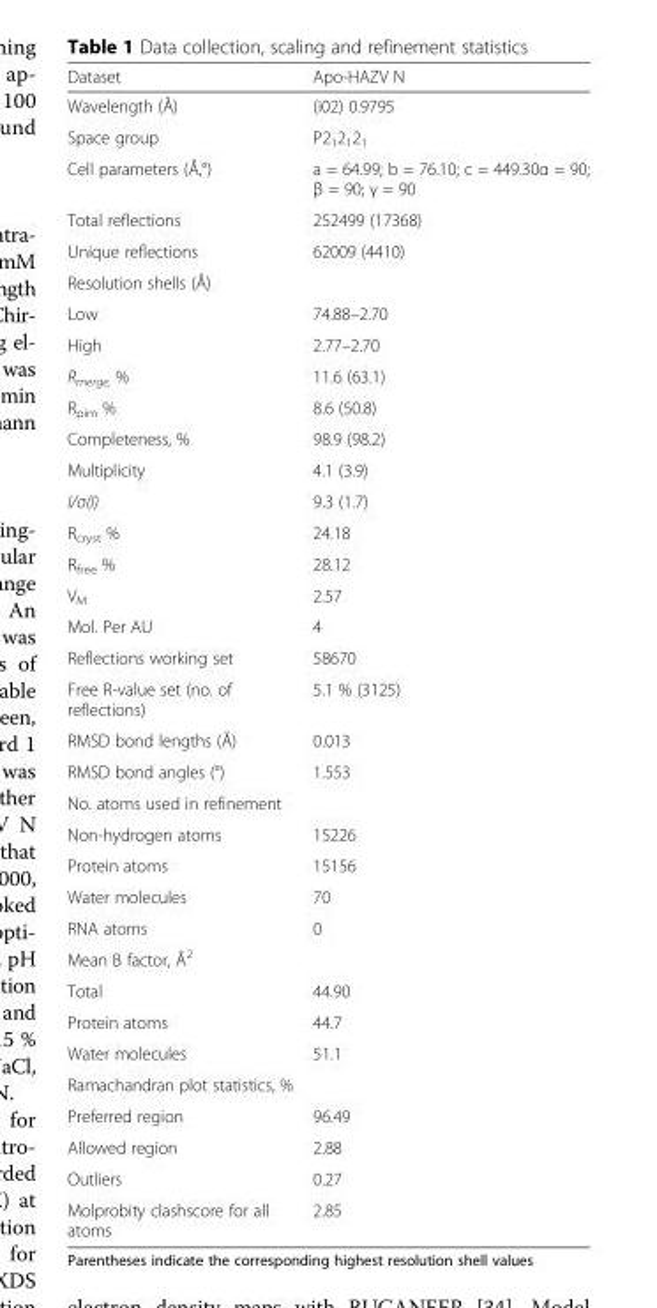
<table><thead><tr><td>Dataset</td><td>Apo-HAZV N</td></tr></thead><tbody><tr><td>Wavelength (Å)</td><td>(i02) 0.9795</td></tr><tr><td>Space group</td><td>P2<sub>1</sub>2<sub>1</sub>2<sub>1</sub></td></tr><tr><td>Cell parameters (Å,°)</td><td>a = 64.99; b = 76.10; c = 449.30α = 90; β = 90; γ = 90</td></tr><tr><td>Total reflections</td><td>252499 (17368)</td></tr><tr><td>Unique reflections</td><td>62009 (4410)</td></tr><tr><td colspan="2">Resolution shells (Å)</td></tr><tr><td>Low</td><td>74.88–2.70</td></tr><tr><td>High</td><td>2.77–2.70</td></tr><tr><td>R<sub>merge,</sub> %</td><td>11.6 (63.1)</td></tr><tr><td>R<sub>pim</sub> %</td><td>8.6 (50.8)</td></tr><tr><td>Completeness, %</td><td>98.9 (98.2)</td></tr><tr><td>Multiplicity</td><td>4.1 (3.9)</td></tr><tr><td>I/σ(I)</td><td>9.3 (1.7)</td></tr><tr><td>R<sub>cryst</sub> %</td><td>24.18</td></tr><tr><td>R<sub>free</sub> %</td><td>28.12</td></tr><tr><td>V<sub>M</sub></td><td>2.57</td></tr><tr><td>Mol. Per AU</td><td>4</td></tr><tr><td>Reflections working set</td><td>58670</td></tr><tr><td>Free R-value set (no. of reflections)</td><td>5.1 % (3125)</td></tr><tr><td>RMSD bond lengths (Å)</td><td>0.013</td></tr><tr><td>RMSD bond angles (°)</td><td>1.553</td></tr><tr><td colspan="2">No. atoms used in refinement</td></tr><tr><td>Non-hydrogen atoms</td><td>15226</td></tr><tr><td>Protein atoms</td><td>15156</td></tr><tr><td>Water molecules</td><td>70</td></tr><tr><td>RNA atoms</td><td>0</td></tr><tr><td colspan="2">Mean B factor, Å<sup>2</sup></td></tr><tr><td>Total</td><td>44.90</td></tr><tr><td>Protein atoms</td><td>44.7</td></tr><tr><td>Water molecules</td><td>51.1</td></tr><tr><td colspan="2">Ramachandran plot statistics, %</td></tr><tr><td>Preferred region</td><td>96.49</td></tr><tr><td>Allowed region</td><td>2.88</td></tr><tr><td>Outliers</td><td>0.27</td></tr><tr><td>Molprobity clashscore for all atoms</td><td>2.85</td></tr></tbody></table>